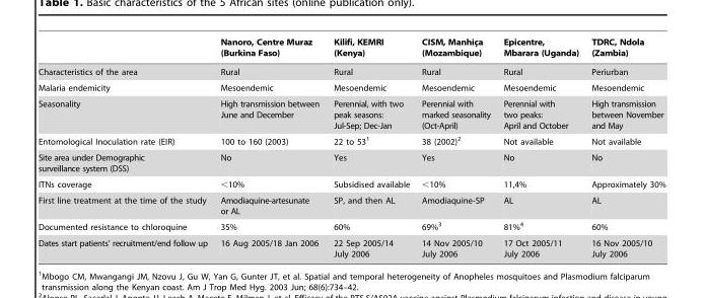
<table><thead><tr><td></td><td>Nanoro, Centre Muraz (Burkina Faso)</td><td>Kilifi, KEMRI (Kenya)</td><td>CISM, Manhic¸a (Mozambique)</td><td>Epicentre, Mbarara (Uganda)</td><td>TDRC, Ndola (Zambia)</td></tr></thead><tbody><tr><td>Characteristics of the area</td><td>Rural</td><td>Rural</td><td>Rural</td><td>Rural</td><td>Periurban</td></tr><tr><td>Malaria endemicity</td><td>Mesoendemic</td><td>Mesoendemic</td><td>Mesoendemic</td><td>Mesoendemic</td><td>Mesoendemic</td></tr><tr><td>Seasonality</td><td>High transmission between June and December</td><td>Perennial, with two peak seasons: Jul-Sep; Dec-Jan</td><td>Perennial with marked seasonality (Oct-April)</td><td>Perennial with two peaks: April and October</td><td>High transmission between November and May</td></tr><tr><td>Entomological Inoculation rate (EIR)</td><td>100 to 160 (2003)</td><td>22 to 53<sup>1</sup></td><td>38 (2002)<sup>2</sup></td><td>Not available</td><td>Not available</td></tr><tr><td>Site area under Demographic surveillance system (DSS)</td><td>No</td><td>Yes</td><td>Yes</td><td>No</td><td>No</td></tr><tr><td>ITNs coverage</td><td>&lt;10%</td><td>Subsidised available</td><td>&lt;10%</td><td>11,4%</td><td>Approximately 30%</td></tr><tr><td>First line treatment at the time of the study</td><td>Amodiaquine-artesunate or AL</td><td>SP, and then AL</td><td>Amodiaquine-SP</td><td>AL</td><td>AL</td></tr><tr><td>Documented resistance to chloroquine</td><td>35%</td><td>60%</td><td>69%<sup>3</sup></td><td>81%<sup>4</sup></td><td>60%</td></tr><tr><td>Dates start patients’ recruitment/end follow up</td><td>16 Aug 2005/18 Jan 2006</td><td>22 Sep 2005/14 July 2006</td><td>14 Nov 2005/10 July 2006</td><td>17 Oct 2005/11 July 2006</td><td>16 Nov 2005/10 July 2006</td></tr></tbody></table>